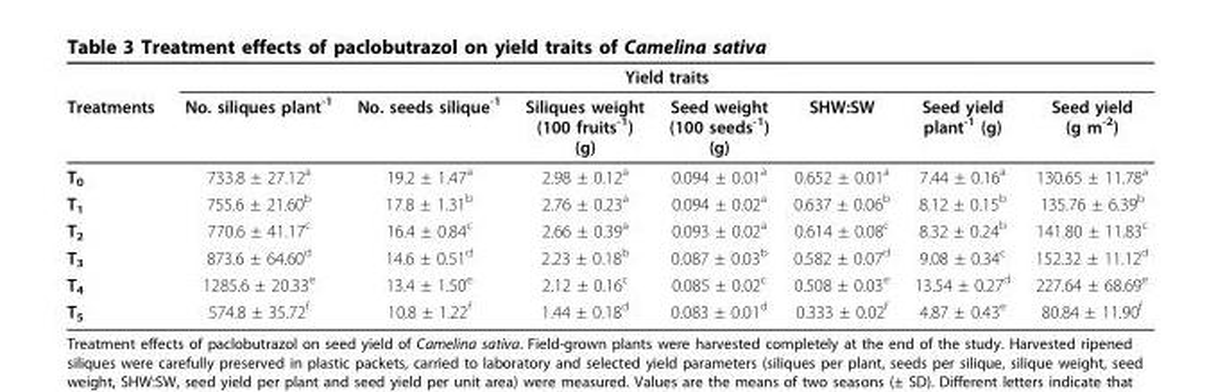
<table><thead><tr><td rowspan="2">Treatments</td><td colspan="7">Yield traits</td></tr><tr><td>No. siliques plant<sup>-1</sup></td><td>No. seeds silique<sup>-1</sup></td><td>Siliques weight (100 fruits<sup>-1</sup>) (g)</td><td>Seed weight (100 seeds<sup>-1</sup>) (g)</td><td>SHW:SW</td><td>Seed yield plant<sup>-1</sup> (g)</td><td>Seed yield (g m<sup>-2</sup>)</td></tr></thead><tbody><tr><td>T<sub>0</sub></td><td>733.8 ± 27.12<sup>a</sup></td><td>19.2 ± 1.47<sup>a</sup></td><td>2.98 ± 0.12<sup>a</sup></td><td>0.094 ± 0.01<sup>a</sup></td><td>0.652 ± 0.01<sup>a</sup></td><td>7.44 ± 0.16<sup>a</sup></td><td>130.65 ± 11.78<sup>a</sup></td></tr><tr><td>T<sub>1</sub></td><td>755.6 ± 21.60<sup>b</sup></td><td>17.8 ± 1.31<sup>b</sup></td><td>2.76 ± 0.23<sup>a</sup></td><td>0.094 ± 0.02<sup>a</sup></td><td>0.637 ± 0.06<sup>b</sup></td><td>8.12 ± 0.15<sup>b</sup></td><td>135.76 ± 6.39<sup>b</sup></td></tr><tr><td>T<sub>2</sub></td><td>770.6 ± 41.17<sup>c</sup></td><td>16.4 ± 0.84<sup>c</sup></td><td>2.66 ± 0.39<sup>a</sup></td><td>0.093 ± 0.02<sup>a</sup></td><td>0.614 ± 0.08<sup>c</sup></td><td>8.32 ± 0.24<sup>b</sup></td><td>141.80 ± 11.83<sup>c</sup></td></tr><tr><td>T<sub>3</sub></td><td>873.6 ± 64.60<sup>d</sup></td><td>14.6 ± 0.51<sup>d</sup></td><td>2.23 ± 0.18<sup>b</sup></td><td>0.087 ± 0.03<sup>b</sup></td><td>0.582 ± 0.07<sup>d</sup></td><td>9.08 ± 0.34<sup>c</sup></td><td>152.32 ± 11.12<sup>d</sup></td></tr><tr><td>T<sub>4</sub></td><td>1285.6 ± 20.33<sup>e</sup></td><td>13.4 ± 1.50<sup>e</sup></td><td>2.12 ± 0.16<sup>c</sup></td><td>0.085 ± 0.02<sup>c</sup></td><td>0.508 ± 0.03<sup>e</sup></td><td>13.54 ± 0.27<sup>d</sup></td><td>227.64 ± 68.69<sup>e</sup></td></tr><tr><td>T<sub>5</sub></td><td>574.8 ± 35.72<sup>f</sup></td><td>10.8 ± 1.22<sup>f</sup></td><td>1.44 ± 0.18<sup>d</sup></td><td>0.083 ± 0.01<sup>d</sup></td><td>0.333 ± 0.02<sup>f</sup></td><td>4.87 ± 0.43<sup>e</sup></td><td>80.84 ± 11.90<sup>f</sup></td></tr></tbody></table>